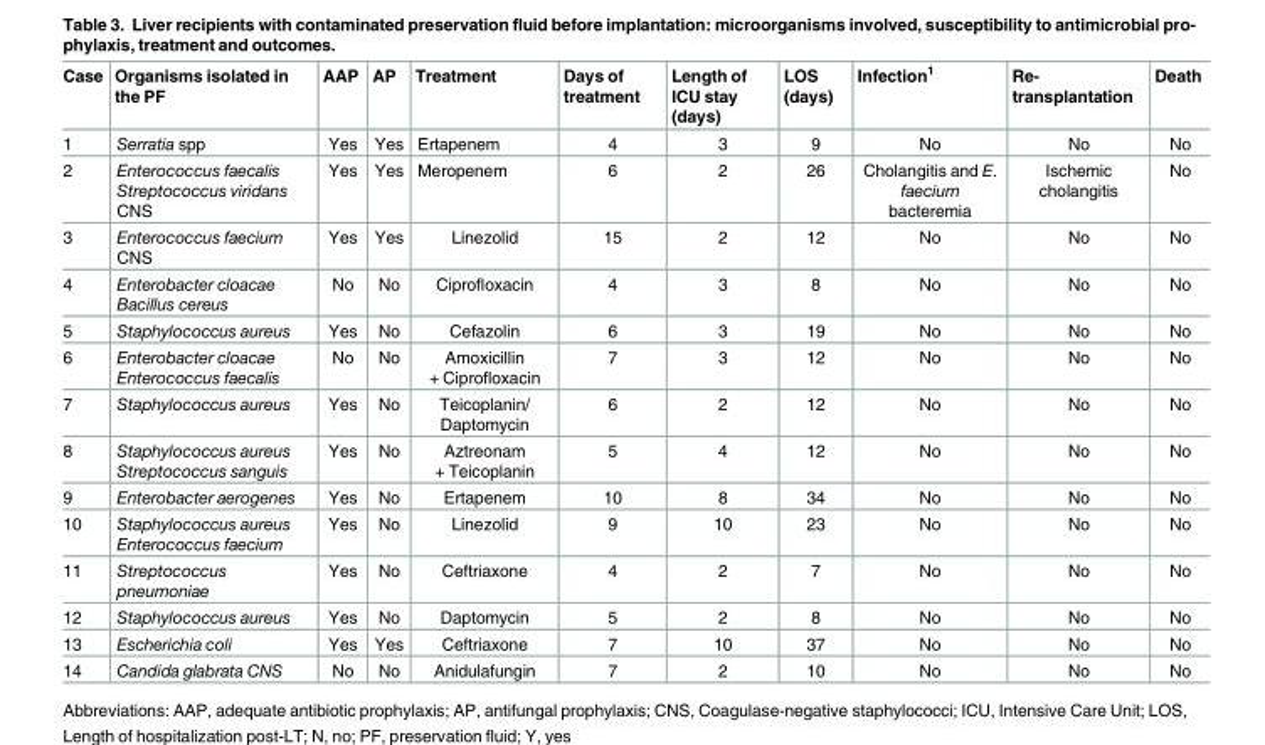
<table><thead><tr><td>Case</td><td>Organisms isolated in the PF</td><td>AAP</td><td>AP</td><td>Treatment</td><td>Days of treatment</td><td>Length of ICU stay (days)</td><td>LOS (days)</td><td>Infection<sup>1</sup></td><td>Re- transplantation</td><td>Death</td></tr></thead><tbody><tr><td>1</td><td>Serratia spp</td><td>Yes</td><td>Yes</td><td>Ertapenem</td><td>4</td><td>3</td><td>9</td><td>No</td><td>No</td><td>No</td></tr><tr><td>2</td><td>Enterococcus faecalis Streptococcus viridans CNS</td><td>Yes</td><td>Yes</td><td>Meropenem</td><td>6</td><td>2</td><td>26</td><td>Cholangitis and E. faecium bacteremia</td><td>Ischemic cholangitis</td><td>No</td></tr><tr><td>3</td><td>Enterococcus faecium CNS</td><td>Yes</td><td>Yes</td><td>Linezolid</td><td>15</td><td>2</td><td>12</td><td>No</td><td>No</td><td>No</td></tr><tr><td>4</td><td>Enterobacter cloacae Bacillus cereus</td><td>No</td><td>No</td><td>Ciprofloxacin</td><td>4</td><td>3</td><td>8</td><td>No</td><td>No</td><td>No</td></tr><tr><td>5</td><td>Staphylococcus aureus</td><td>Yes</td><td>No</td><td>Cefazolin</td><td>6</td><td>3</td><td>19</td><td>No</td><td>No</td><td>No</td></tr><tr><td>6</td><td>Enterobacter cloacae Enterococcus faecalis</td><td>No</td><td>No</td><td>Amoxicillin + Ciprofloxacin</td><td>7</td><td>3</td><td>12</td><td>No</td><td>No</td><td>No</td></tr><tr><td>7</td><td>Staphylococcus aureus</td><td>Yes</td><td>No</td><td>Teicoplanin/ Daptomycin</td><td>6</td><td>2</td><td>12</td><td>No</td><td>No</td><td>No</td></tr><tr><td>8</td><td>Staphylococcus aureus Streptococcus sanguis</td><td>Yes</td><td>No</td><td>Aztreonam + Teicoplanin</td><td>5</td><td>4</td><td>12</td><td>No</td><td>No</td><td>No</td></tr><tr><td>9</td><td>Enterobacter aerogenes</td><td>Yes</td><td>No</td><td>Ertapenem</td><td>10</td><td>8</td><td>34</td><td>No</td><td>No</td><td>No</td></tr><tr><td>10</td><td>Staphylococcus aureus Enterococcus faecium</td><td>Yes</td><td>No</td><td>Linezolid</td><td>9</td><td>10</td><td>23</td><td>No</td><td>No</td><td>No</td></tr><tr><td>11</td><td>Streptococcus pneumoniae</td><td>Yes</td><td>No</td><td>Ceftriaxone</td><td>4</td><td>2</td><td>7</td><td>No</td><td>No</td><td>No</td></tr><tr><td>12</td><td>Staphylococcus aureus</td><td>Yes</td><td>No</td><td>Daptomycin</td><td>5</td><td>2</td><td>8</td><td>No</td><td>No</td><td>No</td></tr><tr><td>13</td><td>Escherichia coli</td><td>Yes</td><td>Yes</td><td>Ceftriaxone</td><td>7</td><td>10</td><td>37</td><td>No</td><td>No</td><td>No</td></tr><tr><td>14</td><td>Candida glabrata CNS</td><td>No</td><td>No</td><td>Anidulafungin</td><td>7</td><td>2</td><td>10</td><td>No</td><td>No</td><td>No</td></tr></tbody></table>